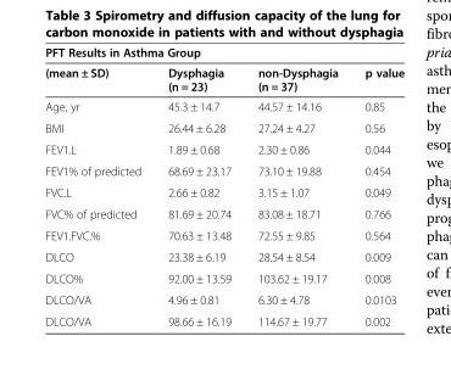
<table><thead><tr><td colspan="4">PFT Results in Asthma Group</td></tr><tr><td>(mean ± SD)</td><td>Dysphagia (n = 23)</td><td>non-Dysphagia (n = 37)</td><td>p value</td></tr></thead><tbody><tr><td>Age, yr</td><td>45.3 ± 14.7</td><td>44.57 ± 14.16</td><td>0.85</td></tr><tr><td>BMI</td><td>26.44 ± 6.28</td><td>27.24 ± 4.27</td><td>0.56</td></tr><tr><td>FEV1.L</td><td>1.89 ± 0.68</td><td>2.30 ± 0.86</td><td>0.044</td></tr><tr><td>FEV1% of predicted</td><td>68.69 ± 23.17</td><td>73.10 ± 19.88</td><td>0.454</td></tr><tr><td>FVC.L</td><td>2.66 ± 0.82</td><td>3.15 ± 1.07</td><td>0.049</td></tr><tr><td>FVC% of predicted</td><td>81.69 ± 20.74</td><td>83.08 ± 18.71</td><td>0.766</td></tr><tr><td>FEV1.FVC.%</td><td>70.63 ± 13.48</td><td>72.55 ± 9.85</td><td>0.564</td></tr><tr><td>DLCO</td><td>23.38 ± 6.19</td><td>28.54 ± 8.54</td><td>0.009</td></tr><tr><td>DLCO%</td><td>92.00 ± 13.59</td><td>103.62 ± 19.17</td><td>0.008</td></tr><tr><td>DLCO/VA</td><td>4.96 ± 0.81</td><td>6.30 ± 4.78</td><td>0.0103</td></tr><tr><td>DLCO/VA</td><td>98.66 ± 16.19</td><td>114.67 ± 19.77</td><td>0.002</td></tr></tbody></table>